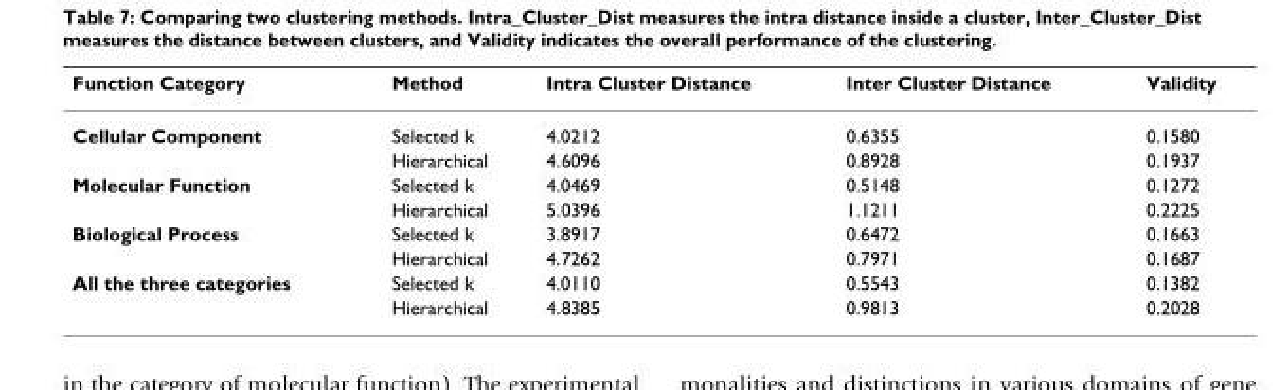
<table><thead><tr><td>Function Category</td><td>Method</td><td>Intra Cluster Distance</td><td>Inter Cluster Distance</td><td>Validity</td></tr></thead><tbody><tr><td rowspan="2">Cellular Component</td><td>Selected k</td><td>4.0212</td><td>0.6355</td><td>0.1580</td></tr><tr><td>Hierarchical</td><td>4.6096</td><td>0.8928</td><td>0.1937</td></tr><tr><td rowspan="2">Molecular Function</td><td>Selected k</td><td>4.0469</td><td>0.5148</td><td>0.1272</td></tr><tr><td>Hierarchical</td><td>5.0396</td><td>1.1211</td><td>0.2225</td></tr><tr><td rowspan="2">Biological Process</td><td>Selected k</td><td>3.8917</td><td>0.6472</td><td>0.1663</td></tr><tr><td>Hierarchical</td><td>4.7262</td><td>0.7971</td><td>0.1687</td></tr><tr><td rowspan="2">All the three categories</td><td>Selected k</td><td>4.0110</td><td>0.5543</td><td>0.1382</td></tr><tr><td>Hierarchical</td><td>4.8385</td><td>0.9813</td><td>0.2028</td></tr></tbody></table>